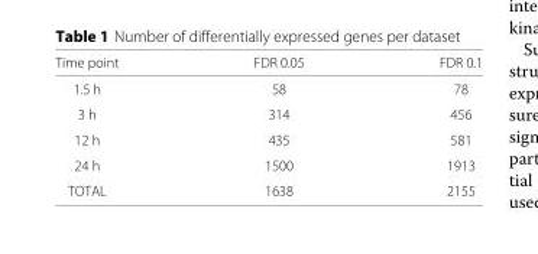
<table><thead><tr><td>Time point</td><td>FDR 0.05</td><td>FDR 0.1</td></tr></thead><tbody><tr><td>1.5 h</td><td>58</td><td>78</td></tr><tr><td>3 h</td><td>314</td><td>456</td></tr><tr><td>12 h</td><td>435</td><td>581</td></tr><tr><td>24 h</td><td>1500</td><td>1913</td></tr><tr><td>TOTAL</td><td>1638</td><td>2155</td></tr></tbody></table>